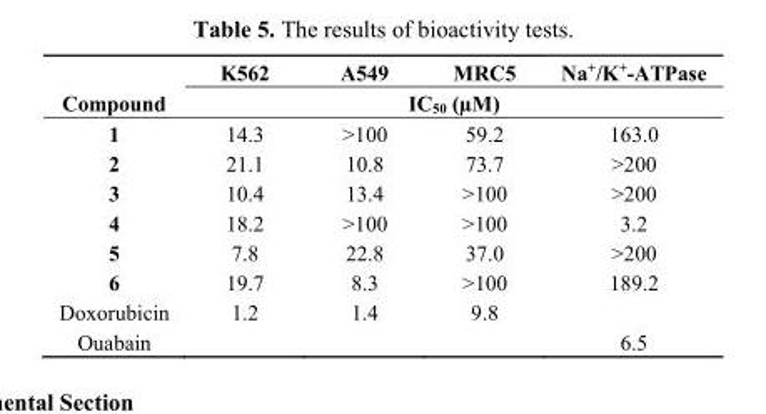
<table><thead><tr><td rowspan="2">Compound</td><td>K562</td><td>A549</td><td>MRC5</td><td>Na<sup>+</sup>/K<sup>+</sup>-ATPase</td></tr><tr><td colspan="4">IC<sub>50</sub> (µM)</td></tr></thead><tbody><tr><td>1</td><td>14.3</td><td>&gt;100</td><td>59.2</td><td>163.0</td></tr><tr><td>2</td><td>21.1</td><td>10.8</td><td>73.7</td><td>&gt;200</td></tr><tr><td>3</td><td>10.4</td><td>13.4</td><td>&gt;100</td><td>&gt;200</td></tr><tr><td>4</td><td>18.2</td><td>&gt;100</td><td>&gt;100</td><td>3.2</td></tr><tr><td>5</td><td>7.8</td><td>22.8</td><td>37.0</td><td>&gt;200</td></tr><tr><td>6</td><td>19.7</td><td>8.3</td><td>&gt;100</td><td>189.2</td></tr><tr><td>Doxorubicin</td><td>1.2</td><td>1.4</td><td>9.8</td><td></td></tr><tr><td>Ouabain</td><td></td><td></td><td></td><td>6.5</td></tr></tbody></table>